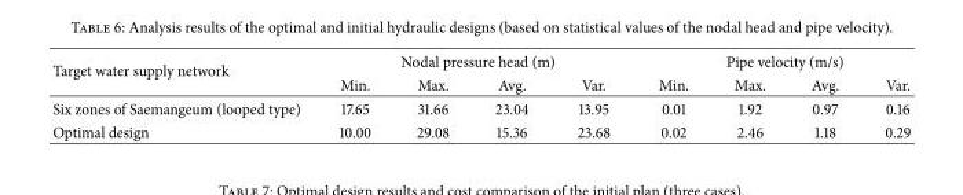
<table><thead><tr><td rowspan="2">Target water supply network</td><td colspan="4">Nodal pressure head (m)</td><td colspan="4">Pipe velocity (m/s)</td></tr><tr><td>Min.</td><td>Max.</td><td>Avg.</td><td>Var.</td><td>Min.</td><td>Max.</td><td>Avg.</td><td>Var.</td></tr></thead><tbody><tr><td>Six zones of Saemangeum (looped type)</td><td>17.65</td><td>31.66</td><td>23.04</td><td>13.95</td><td>0.01</td><td>1.92</td><td>0.97</td><td>0.16</td></tr><tr><td>Optimal design</td><td>10.00</td><td>29.08</td><td>15.36</td><td>23.68</td><td>0.02</td><td>2.46</td><td>1.18</td><td>0.29</td></tr></tbody></table>